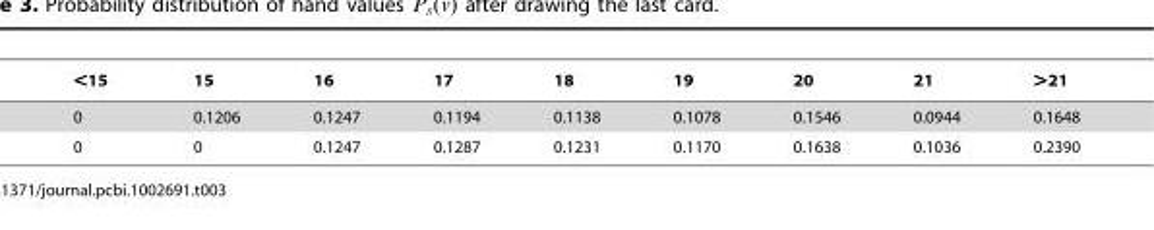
<table><thead><tr><td>&lt;15</td><td>15</td><td>16</td><td>17</td><td>18</td><td>19</td><td>20</td><td>21</td><td>&gt;21</td></tr></thead><tbody><tr><td>0</td><td>0.1206</td><td>0.1247</td><td>0.1194</td><td>0.1138</td><td>0.1078</td><td>0.1546</td><td>0.0944</td><td>0.1648</td></tr><tr><td>0</td><td>0</td><td>0.1247</td><td>0.1287</td><td>0.1231</td><td>0.1170</td><td>0.1638</td><td>0.1036</td><td>0.2390</td></tr></tbody></table>